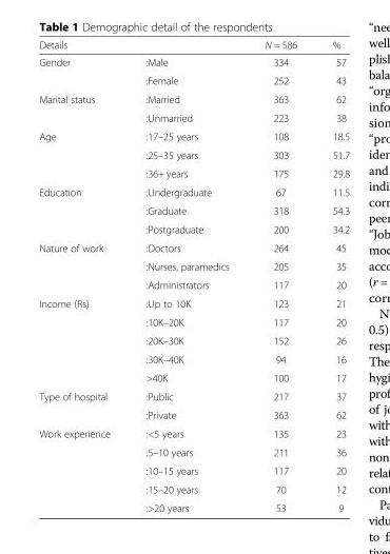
<table><thead><tr><td colspan="2">Details</td><td rowspan="2">N = 586 334</td><td rowspan="2">% 57</td></tr><tr><td>Gender</td><td>:Male</td></tr></thead><tbody><tr><td></td><td>:Female</td><td>252</td><td>43</td></tr><tr><td rowspan="2">Marital status</td><td>:Married</td><td>363</td><td>62</td></tr><tr><td>:Unmarried</td><td>223</td><td>38</td></tr><tr><td rowspan="3">Age</td><td>:17–25 years</td><td>108</td><td>18.5</td></tr><tr><td>:25–35 years</td><td>303</td><td>51.7</td></tr><tr><td>:36+ years</td><td>175</td><td>29.8</td></tr><tr><td rowspan="3">Education</td><td>:Undergraduate</td><td>67</td><td>11.5</td></tr><tr><td>:Graduate</td><td>318</td><td>54.3</td></tr><tr><td>:Postgraduate</td><td>200</td><td>34.2</td></tr><tr><td rowspan="3">Nature of work</td><td>:Doctors</td><td>264</td><td>45</td></tr><tr><td>:Nurses, paramedics</td><td>205</td><td>35</td></tr><tr><td>:Administrators</td><td>117</td><td>20</td></tr><tr><td rowspan="5">Income (Rs)</td><td>:Up to 10K</td><td>123</td><td>21</td></tr><tr><td>:10K–20K</td><td>117</td><td>20</td></tr><tr><td>:20K–30K</td><td>152</td><td>26</td></tr><tr><td>:30K–40K</td><td>94</td><td>16</td></tr><tr><td>&gt;40K</td><td>100</td><td>17</td></tr><tr><td rowspan="2">Type of hospital</td><td>:Public</td><td>217</td><td>37</td></tr><tr><td>:Private</td><td>363</td><td>62</td></tr><tr><td rowspan="5">Work experience</td><td>:&lt;5 years</td><td>135</td><td>23</td></tr><tr><td>:5–10 years</td><td>211</td><td>36</td></tr><tr><td>:10–15 years</td><td>117</td><td>20</td></tr><tr><td>:15–20 years</td><td>70</td><td>12</td></tr><tr><td>:&gt;20 years</td><td>53</td><td>9</td></tr></tbody></table>